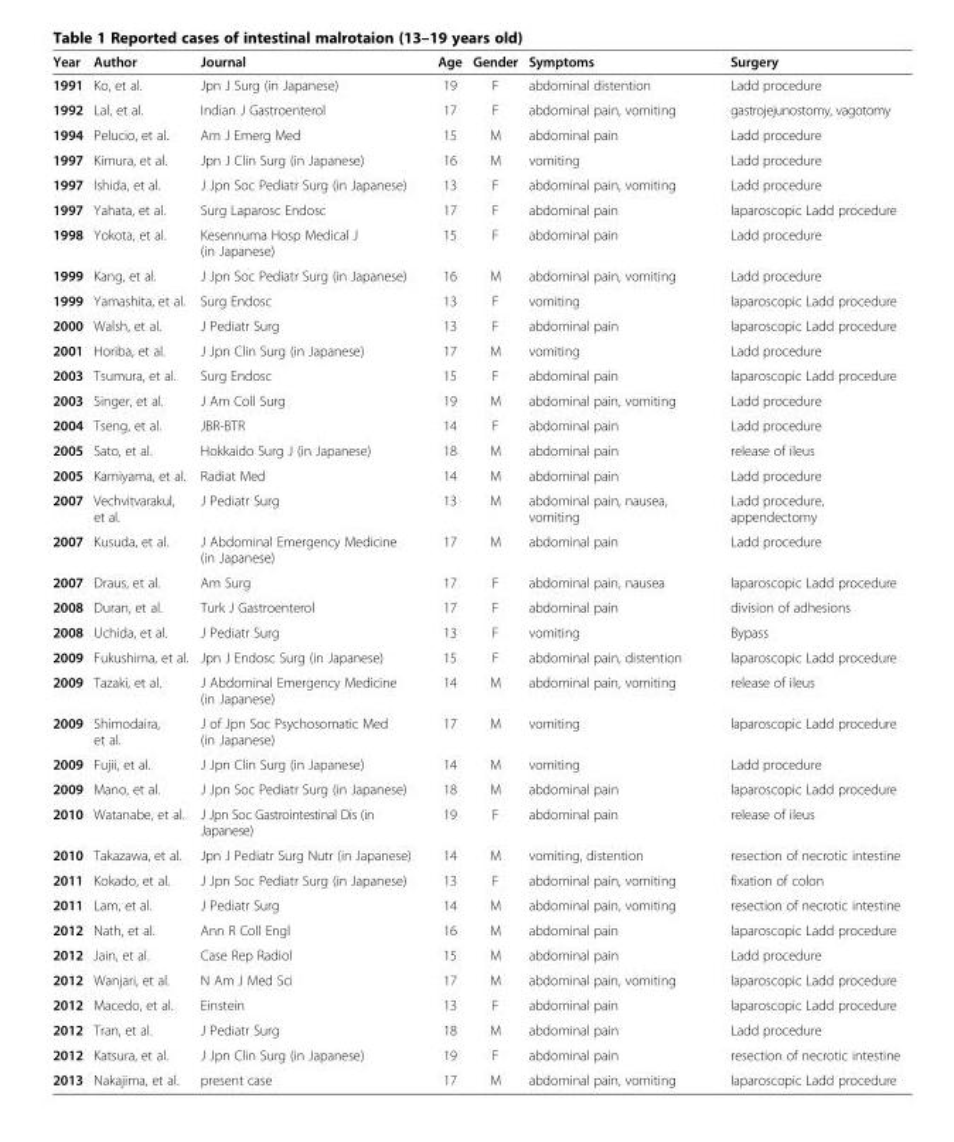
<table><thead><tr><td>Year</td><td>Author</td><td>Journal</td><td>Age</td><td>Gender</td><td>Symptoms</td><td>Surgery</td></tr></thead><tbody><tr><td>1991</td><td>Ko, et al.</td><td>Jpn J Surg (in Japanese)</td><td>19</td><td>F</td><td>abdominal distention</td><td>Ladd procedure</td></tr><tr><td>1992</td><td>Lal, et al.</td><td>Indian J Gastroenterol</td><td>17</td><td>F</td><td>abdominal pain, vomiting</td><td>gastrojejunostomy, vagotomy</td></tr><tr><td>1994</td><td>Pelucio, et al.</td><td>Am J Emerg Med</td><td>15</td><td>M</td><td>abdominal pain</td><td>Ladd procedure</td></tr><tr><td>1997</td><td>Kimura, et al.</td><td>Jpn J Clin Surg (in Japanese)</td><td>16</td><td>M</td><td>vomiting</td><td>Ladd procedure</td></tr><tr><td>1997</td><td>Ishida, et al.</td><td>J Jpn Soc Pediatr Surg (in Japanese)</td><td>13</td><td>F</td><td>abdominal pain, vomiting</td><td>Ladd procedure</td></tr><tr><td>1997</td><td>Yahata, et al.</td><td>Surg Laparosc Endosc</td><td>17</td><td>F</td><td>abdominal pain</td><td>laparoscopic Ladd procedure</td></tr><tr><td>1998</td><td>Yokota, et al.</td><td>Kesennuma Hosp Medical J (in Japanese)</td><td>15</td><td>F</td><td>abdominal pain</td><td>Ladd procedure</td></tr><tr><td>1999</td><td>Kang, et al.</td><td>J Jpn Soc Pediatr Surg (in Japanese)</td><td>16</td><td>M</td><td>abdominal pain, vomiting</td><td>Ladd procedure</td></tr><tr><td>1999</td><td>Yamashita, et al.</td><td>Surg Endosc</td><td>13</td><td>F</td><td>vomiting</td><td>laparoscopic Ladd procedure</td></tr><tr><td>2000</td><td>Walsh, et al.</td><td>J Pediatr Surg</td><td>13</td><td>F</td><td>abdominal pain</td><td>laparoscopic Ladd procedure</td></tr><tr><td>2001</td><td>Horiba, et al.</td><td>J Jpn Clin Surg (in Japanese)</td><td>17</td><td>M</td><td>vomiting</td><td>Ladd procedure</td></tr><tr><td>2003</td><td>Tsumura, et al.</td><td>Surg Endosc</td><td>15</td><td>F</td><td>abdominal pain</td><td>laparoscopic Ladd procedure</td></tr><tr><td>2003</td><td>Singer, et al.</td><td>J Am Coll Surg</td><td>19</td><td>M</td><td>abdominal pain, vomiting</td><td>Ladd procedure</td></tr><tr><td>2004</td><td>Tseng, et al.</td><td>JBR-BTR</td><td>14</td><td>F</td><td>abdominal pain</td><td>Ladd procedure</td></tr><tr><td>2005</td><td>Sato, et al.</td><td>Hokkaido Surg J (in Japanese)</td><td>18</td><td>M</td><td>abdominal pain</td><td>release of ileus</td></tr><tr><td>2005</td><td>Kamiyama, et al.</td><td>Radiat Med</td><td>14</td><td>M</td><td>abdominal pain</td><td>Ladd procedure</td></tr><tr><td>2007</td><td>Vechvitvarakul, et al.</td><td>J Pediatr Surg</td><td>13</td><td>M</td><td>abdominal pain, nausea, vomiting</td><td>Ladd procedure, appendectomy</td></tr><tr><td>2007</td><td>Kusuda, et al.</td><td>J Abdominal Emergency Medicine (in Japanese)</td><td>17</td><td>M</td><td>abdominal pain</td><td>Ladd procedure</td></tr><tr><td>2007</td><td>Draus, et al.</td><td>Am Surg</td><td>17</td><td>F</td><td>abdominal pain, nausea</td><td>laparoscopic Ladd procedure</td></tr><tr><td>2008</td><td>Duran, et al.</td><td>Turk J Gastroenterol</td><td>17</td><td>F</td><td>abdominal pain</td><td>division of adhesions</td></tr><tr><td>2008</td><td>Uchida, et al.</td><td>J Pediatr Surg</td><td>13</td><td>F</td><td>vomiting</td><td>Bypass</td></tr><tr><td>2009</td><td>Fukushima, et al.</td><td>Jpn J Endosc Surg (in Japanese)</td><td>15</td><td>F</td><td>abdominal pain, distention</td><td>laparoscopic Ladd procedure</td></tr><tr><td>2009</td><td>Tazaki, et al.</td><td>J Abdominal Emergency Medicine (in Japanese)</td><td>14</td><td>M</td><td>abdominal pain, vomiting</td><td>release of ileus</td></tr><tr><td>2009</td><td>Shimodaira, et al.</td><td>J of Jpn Soc Psychosomatic Med (in Japanese)</td><td>17</td><td>M</td><td>vomiting</td><td>laparoscopic Ladd procedure</td></tr><tr><td>2009</td><td>Fujii, et al.</td><td>J Jpn Clin Surg (in Japanese)</td><td>14</td><td>M</td><td>vomiting</td><td>Ladd procedure</td></tr><tr><td>2009</td><td>Mano, et al.</td><td>J Jpn Soc Pediatr Surg (in Japanese)</td><td>18</td><td>M</td><td>abdominal pain</td><td>laparoscopic Ladd procedure</td></tr><tr><td>2010</td><td>Watanabe, et al.</td><td>J Jpn Soc Gastrointestinal Dis (in Japanese)</td><td>19</td><td>F</td><td>abdominal pain</td><td>release of ileus</td></tr><tr><td>2010</td><td>Takazawa, et al.</td><td>Jpn J Pediatr Surg Nutr (in Japanese)</td><td>14</td><td>M</td><td>vomiting, distention</td><td>resection of necrotic intestine</td></tr><tr><td>2011</td><td>Kokado, et al.</td><td>J Jpn Soc Pediatr Surg (in Japanese)</td><td>13</td><td>F</td><td>abdominal pain, vomiting</td><td>fixation of colon</td></tr><tr><td>2011</td><td>Lam, et al.</td><td>J Pediatr Surg</td><td>14</td><td>M</td><td>abdominal pain, vomiting</td><td>resection of necrotic intestine</td></tr><tr><td>2012</td><td>Nath, et al.</td><td>Ann R Coll Engl</td><td>16</td><td>M</td><td>abdominal pain</td><td>laparoscopic Ladd procedure</td></tr><tr><td>2012</td><td>Jain, et al.</td><td>Case Rep Radiol</td><td>15</td><td>M</td><td>abdominal pain</td><td>Ladd procedure</td></tr><tr><td>2012</td><td>Wanjari, et al.</td><td>N Am J Med Sci</td><td>17</td><td>M</td><td>abdominal pain, vomiting</td><td>laparoscopic Ladd procedure</td></tr><tr><td>2012</td><td>Macedo, et al.</td><td>Einstein</td><td>13</td><td>F</td><td>abdominal pain</td><td>laparoscopic Ladd procedure</td></tr><tr><td>2012</td><td>Tran, et al.</td><td>J Pediatr Surg</td><td>18</td><td>M</td><td>abdominal pain</td><td>Ladd procedure</td></tr><tr><td>2012</td><td>Katsura, et al.</td><td>J Jpn Clin Surg (in Japanese)</td><td>19</td><td>F</td><td>abdominal pain</td><td>resection of necrotic intestine</td></tr><tr><td>2013</td><td>Nakajima, et al.</td><td>present case</td><td>17</td><td>M</td><td>abdominal pain, vomiting</td><td>laparoscopic Ladd procedure</td></tr></tbody></table>